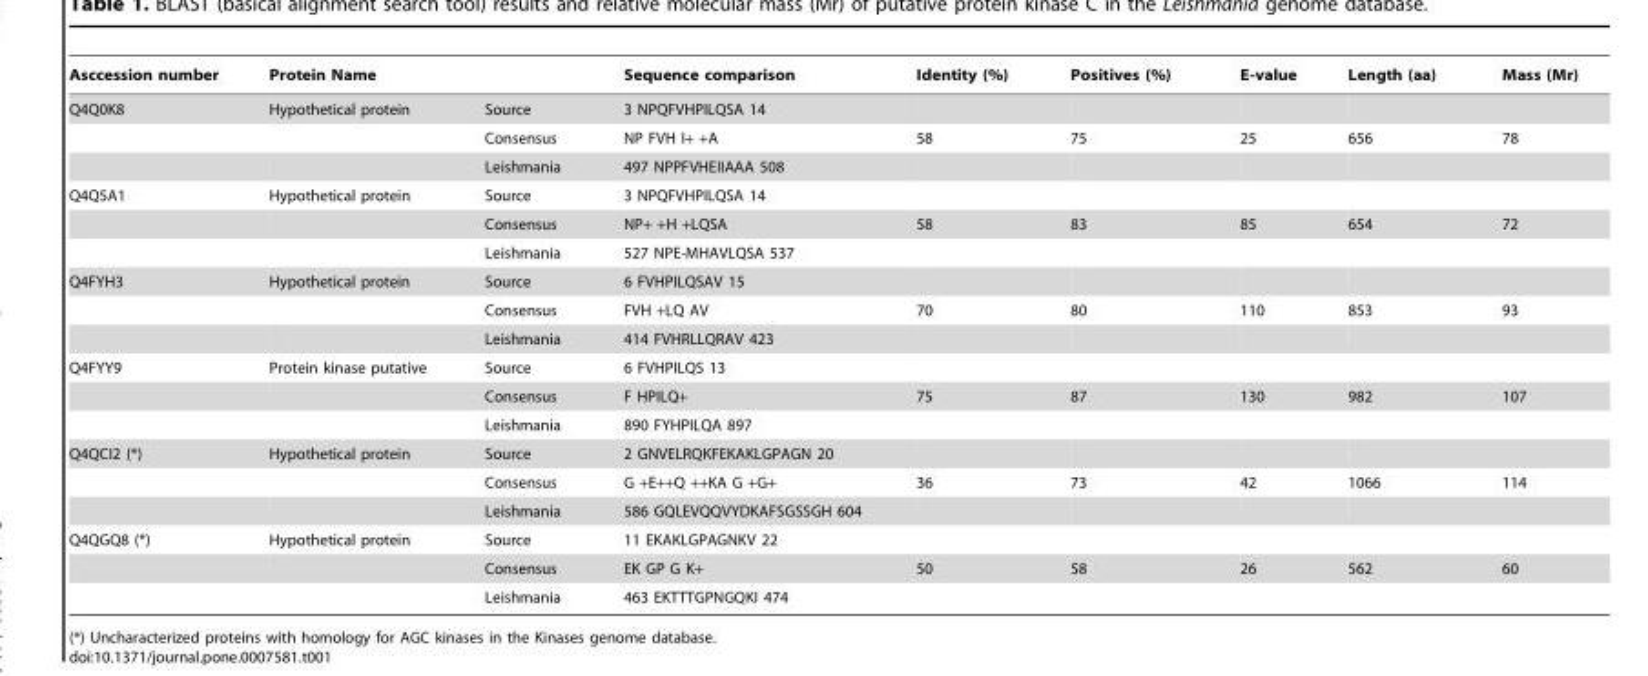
<table><thead><tr><td>Asccession number</td><td>Protein Name</td><td></td><td>Sequence comparison</td><td>Identity (%)</td><td>Positives (%)</td><td>E-value</td><td>Length (aa)</td><td>Mass (Mr)</td></tr></thead><tbody><tr><td rowspan="3">Q4Q0K8</td><td>Hypothetical protein</td><td>Source</td><td>3 NPQFVHPILQSA 14</td><td></td><td></td><td></td><td></td><td></td></tr><tr><td></td><td>Consensus</td><td>NP FVH I+ +A</td><td>58</td><td>75</td><td>25</td><td>656</td><td>78</td></tr><tr><td></td><td>Leishmania</td><td>497 NPPFVHEIIAAA 508</td><td></td><td></td><td></td><td></td><td></td></tr><tr><td rowspan="3">Q4Q5A1</td><td>Hypothetical protein</td><td>Source</td><td>3 NPQFVHPILQSA 14</td><td></td><td></td><td></td><td></td><td></td></tr><tr><td></td><td>Consensus</td><td>NP+ +H +LQSA</td><td>58</td><td>83</td><td>85</td><td>654</td><td>72</td></tr><tr><td></td><td>Leishmania</td><td>527 NPE-MHAVLQSA 537</td><td></td><td></td><td></td><td></td><td></td></tr><tr><td rowspan="3">Q4FYH3</td><td>Hypothetical protein</td><td>Source</td><td>6 FVHPILQSAV 15</td><td></td><td></td><td></td><td></td><td></td></tr><tr><td></td><td>Consensus</td><td>FVH +LQ AV</td><td>70</td><td>80</td><td>110</td><td>853</td><td>93</td></tr><tr><td></td><td>Leishmania</td><td>414 FVHRLLQRAV 423</td><td></td><td></td><td></td><td></td><td></td></tr><tr><td rowspan="3">Q4FYY9</td><td>Protein kinase putative</td><td>Source</td><td>6 FVHPILQS 13</td><td></td><td></td><td></td><td></td><td></td></tr><tr><td></td><td>Consensus</td><td>F HPILQ+</td><td>75</td><td>87</td><td>130</td><td>982</td><td>107</td></tr><tr><td></td><td>Leishmania</td><td>890 FYHPILQA 897</td><td></td><td></td><td></td><td></td><td></td></tr><tr><td rowspan="3">Q4QCI2 (*)</td><td>Hypothetical protein</td><td>Source</td><td>2 GNVELRQKFEKAKLGPAGN 20</td><td></td><td></td><td></td><td></td><td></td></tr><tr><td></td><td>Consensus</td><td>G +E++Q ++KA G +G+</td><td>36</td><td>73</td><td>42</td><td>1066</td><td>114</td></tr><tr><td></td><td>Leishmania</td><td>586 GQLEVQQVYDKAFSGSSGH 604</td><td></td><td></td><td></td><td></td><td></td></tr><tr><td rowspan="3">Q4QGQ8 (*)</td><td>Hypothetical protein</td><td>Source</td><td>11 EKAKLGPAGNKV 22</td><td></td><td></td><td></td><td></td><td></td></tr><tr><td></td><td>Consensus</td><td>EK GP G K+</td><td>50</td><td>58</td><td>26</td><td>562</td><td>60</td></tr><tr><td></td><td>Leishmania</td><td>463 EKTTTGPNGQKI 474</td><td></td><td></td><td></td><td></td><td></td></tr></tbody></table>